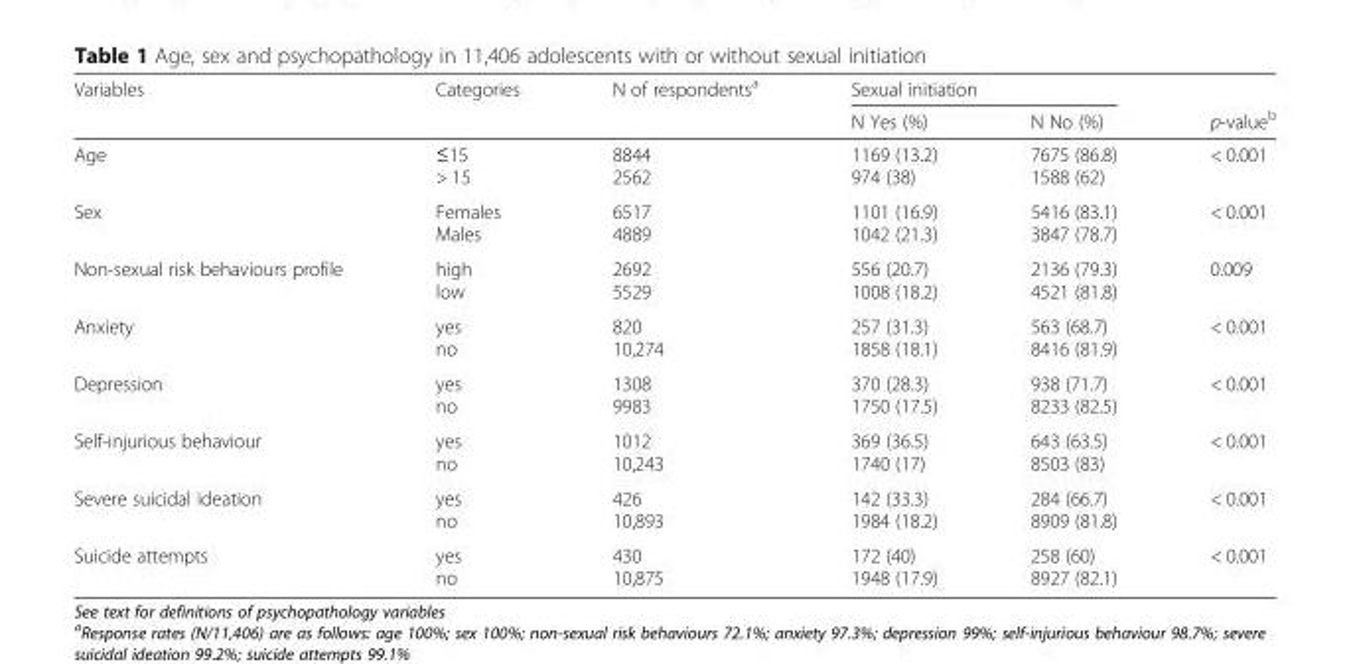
<table><thead><tr><td rowspan="2">Variables</td><td rowspan="2">Categories</td><td rowspan="2">N of respondents<sup>a</sup></td><td colspan="2">Sexual initiation</td><td rowspan="2">p-value<sup>b</sup></td></tr><tr><td>N Yes (%)</td><td>N No (%)</td></tr></thead><tbody><tr><td>Age</td><td>≤15 &gt; 15</td><td>8844 2562</td><td>1169 (13.2) 974 (38)</td><td>7675 (86.8) 1588 (62)</td><td>&lt; 0.001</td></tr><tr><td>Sex</td><td>Females Males</td><td>6517 4889</td><td>1101 (16.9) 1042 (21.3)</td><td>5416 (83.1) 3847 (78.7)</td><td>&lt; 0.001</td></tr><tr><td>Non-sexual risk behaviours profile</td><td>high low</td><td>2692 5529</td><td>556 (20.7) 1008 (18.2)</td><td>2136 (79.3) 4521 (81.8)</td><td>0.009</td></tr><tr><td>Anxiety</td><td>yes no</td><td>820 10,274</td><td>257 (31.3) 1858 (18.1)</td><td>563 (68.7) 8416 (81.9)</td><td>&lt; 0.001</td></tr><tr><td>Depression</td><td>yes no</td><td>1308 9983</td><td>370 (28.3) 1750 (17.5)</td><td>938 (71.7) 8233 (82.5)</td><td>&lt; 0.001</td></tr><tr><td>Self-injurious behaviour</td><td>yes no</td><td>1012 10,243</td><td>369 (36.5) 1740 (17)</td><td>643 (63.5) 8503 (83)</td><td>&lt; 0.001</td></tr><tr><td>Severe suicidal ideation</td><td>yes no</td><td>426 10,893</td><td>142 (33.3) 1984 (18.2)</td><td>284 (66.7) 8909 (81.8)</td><td>&lt; 0.001</td></tr><tr><td>Suicide attempts</td><td>yes no</td><td>430 10,875</td><td>172 (40) 1948 (17.9)</td><td>258 (60) 8927 (82.1)</td><td>&lt; 0.001</td></tr></tbody></table>